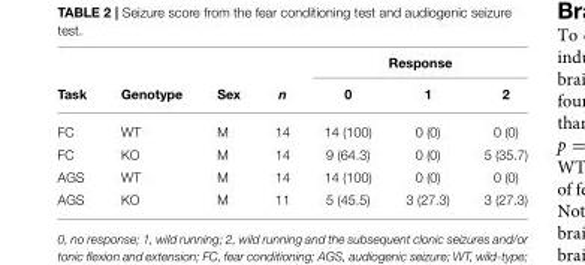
<table><thead><tr><td rowspan="2">Task</td><td rowspan="2">Genotype</td><td rowspan="2">Sex</td><td rowspan="2">n</td><td colspan="3">Response</td></tr><tr><td>0</td><td>1</td><td>2</td></tr></thead><tbody><tr><td>FC</td><td>WT</td><td>M</td><td>14</td><td>14 (100)</td><td>0 (0)</td><td>0 (0)</td></tr><tr><td>FC</td><td>KO</td><td>M</td><td>14</td><td>9 (64.3)</td><td>0 (0)</td><td>5 (35.7)</td></tr><tr><td>AGS</td><td>WT</td><td>M</td><td>14</td><td>14 (100)</td><td>0 (0)</td><td>0 (0)</td></tr><tr><td>AGS</td><td>KO</td><td>M</td><td>11</td><td>5 (45.5)</td><td>3 (27.3)</td><td>3 (27.3)</td></tr></tbody></table>